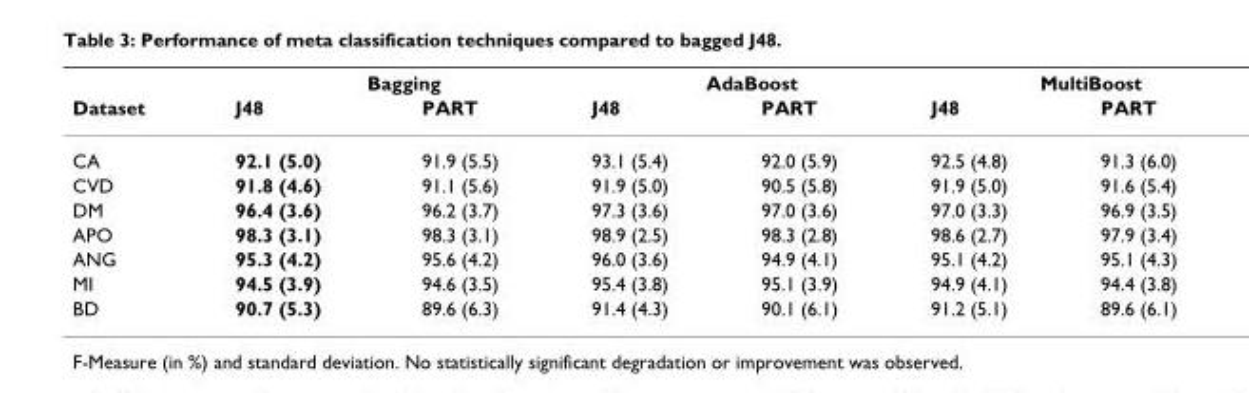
<table><thead><tr><td rowspan="2">Dataset</td><td colspan="2">Bagging</td><td colspan="2">AdaBoost</td><td colspan="2">MultiBoost</td></tr><tr><td>J48</td><td>PART</td><td>J48</td><td>PART</td><td>J48</td><td>PART</td></tr></thead><tbody><tr><td>CA</td><td>92.1 (5.0)</td><td>91.9 (5.5)</td><td>93.1 (5.4)</td><td>92.0 (5.9)</td><td>92.5 (4.8)</td><td>91.3 (6.0)</td></tr><tr><td>CVD</td><td>91.8 (4.6)</td><td>91.1 (5.6)</td><td>91.9 (5.0)</td><td>90.5 (5.8)</td><td>91.9 (5.0)</td><td>91.6 (5.4)</td></tr><tr><td>DM</td><td>96.4 (3.6)</td><td>96.2 (3.7)</td><td>97.3 (3.6)</td><td>97.0 (3.6)</td><td>97.0 (3.3)</td><td>96.9 (3.5)</td></tr><tr><td>APO</td><td>98.3 (3.1)</td><td>98.3 (3.1)</td><td>98.9 (2.5)</td><td>98.3 (2.8)</td><td>98.6 (2.7)</td><td>97.9 (3.4)</td></tr><tr><td>ANG</td><td>95.3 (4.2)</td><td>95.6 (4.2)</td><td>96.0 (3.6)</td><td>94.9 (4.1)</td><td>95.1 (4.2)</td><td>95.1 (4.3)</td></tr><tr><td>MI</td><td>94.5 (3.9)</td><td>94.6 (3.5)</td><td>95.4 (3.8)</td><td>95.1 (3.9)</td><td>94.9 (4.1)</td><td>94.4 (3.8)</td></tr><tr><td>BD</td><td>90.7 (5.3)</td><td>89.6 (6.3)</td><td>91.4 (4.3)</td><td>90.1 (6.1)</td><td>91.2 (5.1)</td><td>89.6 (6.1)</td></tr></tbody></table>